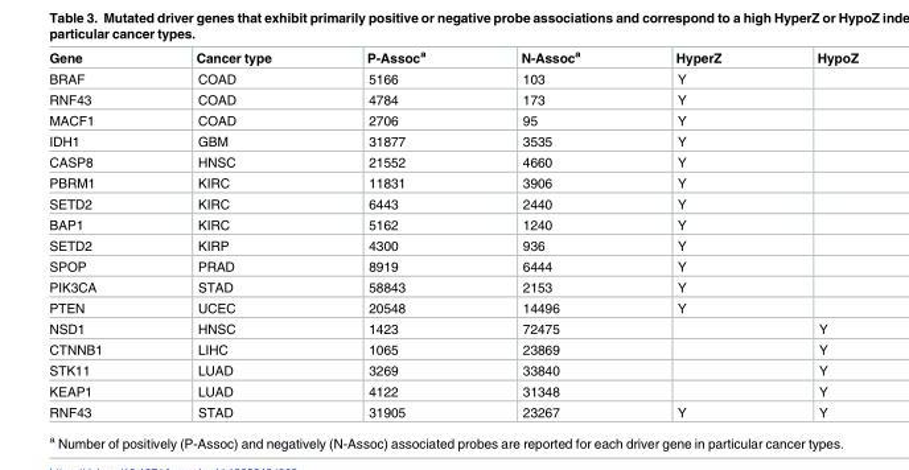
<table><thead><tr><td>Gene</td><td>Cancer type</td><td>P-Assoc<sup>a</sup></td><td>N-Assoc<sup>a</sup></td><td>HyperZ</td><td>HypoZ</td></tr></thead><tbody><tr><td>BRAF</td><td>COAD</td><td>5166</td><td>103</td><td>Y</td><td></td></tr><tr><td>RNF43</td><td>COAD</td><td>4784</td><td>173</td><td>Y</td><td></td></tr><tr><td>MACF1</td><td>COAD</td><td>2706</td><td>95</td><td>Y</td><td></td></tr><tr><td>IDH1</td><td>GBM</td><td>31877</td><td>3535</td><td>Y</td><td></td></tr><tr><td>CASP8</td><td>HNSC</td><td>21552</td><td>4660</td><td>Y</td><td></td></tr><tr><td>PBRM1</td><td>KIRC</td><td>11831</td><td>3906</td><td>Y</td><td></td></tr><tr><td>SETD2</td><td>KIRC</td><td>6443</td><td>2440</td><td>Y</td><td></td></tr><tr><td>BAP1</td><td>KIRC</td><td>5162</td><td>1240</td><td>Y</td><td></td></tr><tr><td>SETD2</td><td>KIRP</td><td>4300</td><td>936</td><td>Y</td><td></td></tr><tr><td>SPOP</td><td>PRAD</td><td>8919</td><td>6444</td><td>Y</td><td></td></tr><tr><td>PIK3CA</td><td>STAD</td><td>58843</td><td>2153</td><td>Y</td><td></td></tr><tr><td>PTEN</td><td>UCEC</td><td>20548</td><td>14496</td><td>Y</td><td></td></tr><tr><td>NSD1</td><td>HNSC</td><td>1423</td><td>72475</td><td></td><td>Y</td></tr><tr><td>CTNNB1</td><td>LIHC</td><td>1065</td><td>23869</td><td></td><td>Y</td></tr><tr><td>STK11</td><td>LUAD</td><td>3269</td><td>33840</td><td></td><td>Y</td></tr><tr><td>KEAP1</td><td>LUAD</td><td>4122</td><td>31348</td><td></td><td>Y</td></tr><tr><td>RNF43</td><td>STAD</td><td>31905</td><td>23267</td><td>Y</td><td>Y</td></tr></tbody></table>